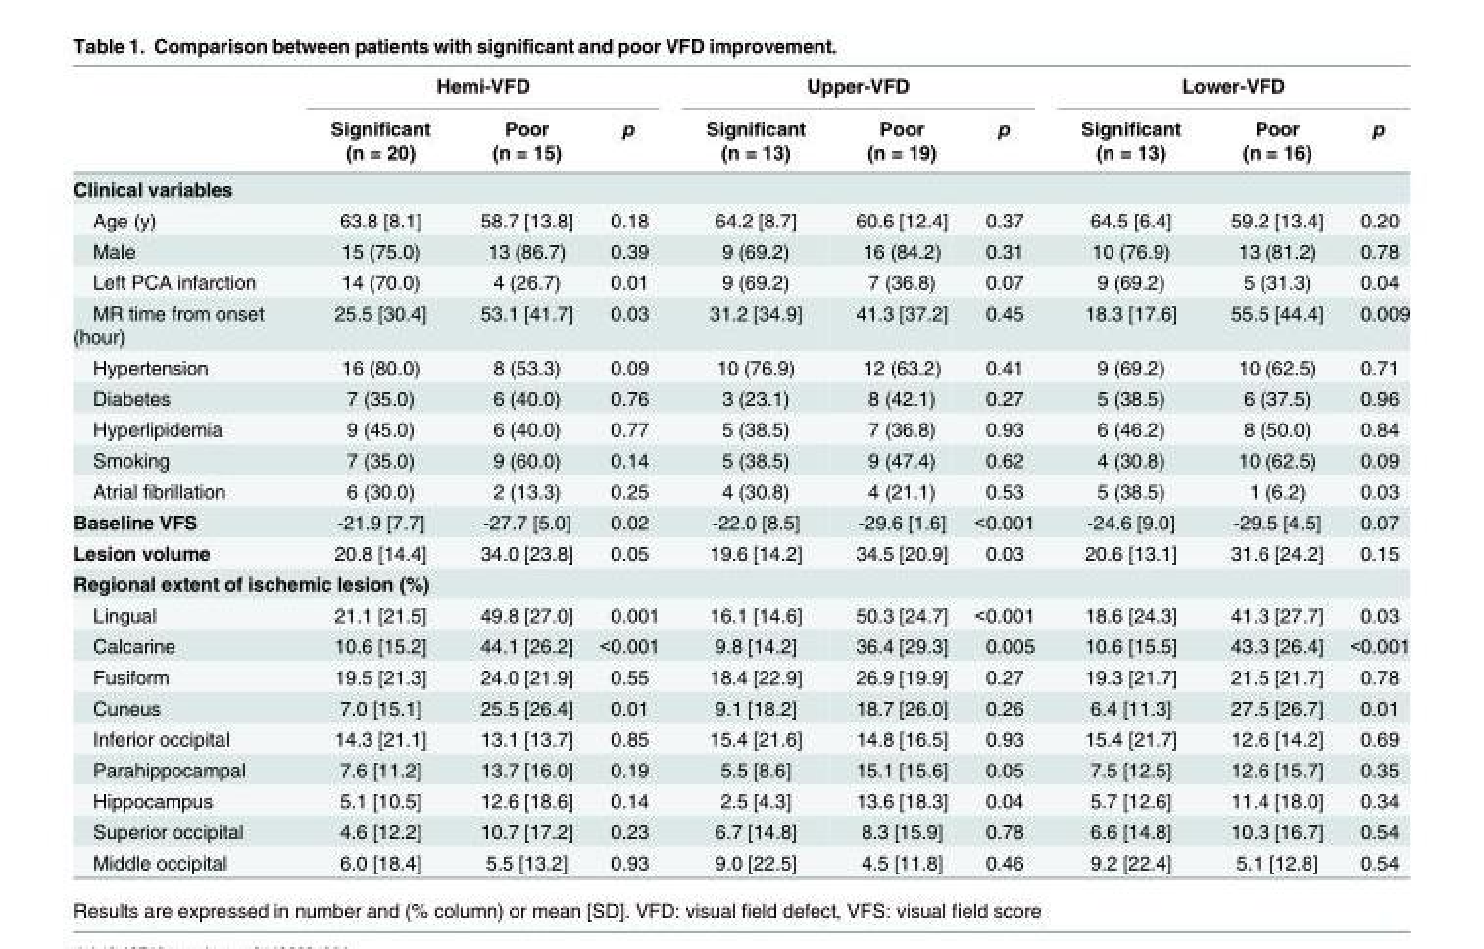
<table><thead><tr><td rowspan="2"></td><td colspan="3">Hemi-VFD</td><td colspan="3">Upper-VFD</td><td colspan="3">Lower-VFD</td></tr><tr><td>Significant (n = 20)</td><td>Poor (n = 15)</td><td>p</td><td>Significant (n = 13)</td><td>Poor (n = 19)</td><td>p</td><td>Significant (n = 13)</td><td>Poor (n = 16)</td><td>p</td></tr></thead><tbody><tr><td colspan="10">Clinical variables</td></tr><tr><td>Age (y)</td><td>63.8 [8.1]</td><td>58.7 [13.8]</td><td>0.18</td><td>64.2 [8.7]</td><td>60.6 [12.4]</td><td>0.37</td><td>64.5 [6.4]</td><td>59.2 [13.4]</td><td>0.20</td></tr><tr><td>Male</td><td>15 (75.0)</td><td>13 (86.7)</td><td>0.39</td><td>9 (69.2)</td><td>16 (84.2)</td><td>0.31</td><td>10 (76.9)</td><td>13 (81.2)</td><td>0.78</td></tr><tr><td>Left PCA infarction</td><td>14 (70.0)</td><td>4 (26.7)</td><td>0.01</td><td>9 (69.2)</td><td>7 (36.8)</td><td>0.07</td><td>9 (69.2)</td><td>5 (31.3)</td><td>0.04</td></tr><tr><td>MR time from onset (hour)</td><td>25.5 [30.4]</td><td>53.1 [41.7]</td><td>0.03</td><td>31.2 [34.9]</td><td>41.3 [37.2]</td><td>0.45</td><td>18.3 [17.6]</td><td>55.5 [44.4]</td><td>0.009</td></tr><tr><td>Hypertension</td><td>16 (80.0)</td><td>8 (53.3)</td><td>0.09</td><td>10 (76.9)</td><td>12 (63.2)</td><td>0.41</td><td>9 (69.2)</td><td>10 (62.5)</td><td>0.71</td></tr><tr><td>Diabetes</td><td>7 (35.0)</td><td>6 (40.0)</td><td>0.76</td><td>3 (23.1)</td><td>8 (42.1)</td><td>0.27</td><td>5 (38.5)</td><td>6 (37.5)</td><td>0.96</td></tr><tr><td>Hyperlipidemia</td><td>9 (45.0)</td><td>6 (40.0)</td><td>0.77</td><td>5 (38.5)</td><td>7 (36.8)</td><td>0.93</td><td>6 (46.2)</td><td>8 (50.0)</td><td>0.84</td></tr><tr><td>Smoking</td><td>7 (35.0)</td><td>9 (60.0)</td><td>0.14</td><td>5 (38.5)</td><td>9 (47.4)</td><td>0.62</td><td>4 (30.8)</td><td>10 (62.5)</td><td>0.09</td></tr><tr><td>Atrial fibrillation</td><td>6 (30.0)</td><td>2 (13.3)</td><td>0.25</td><td>4 (30.8)</td><td>4 (21.1)</td><td>0.53</td><td>5 (38.5)</td><td>1 (6.2)</td><td>0.03</td></tr><tr><td>Baseline VFS</td><td>-21.9 [7.7]</td><td>-27.7 [5.0]</td><td>0.02</td><td>-22.0 [8.5]</td><td>-29.6 [1.6]</td><td>&lt;0.001</td><td>-24.6 [9.0]</td><td>-29.5 [4.5]</td><td>0.07</td></tr><tr><td>Lesion volume</td><td>20.8 [14.4]</td><td>34.0 [23.8]</td><td>0.05</td><td>19.6 [14.2]</td><td>34.5 [20.9]</td><td>0.03</td><td>20.6 [13.1]</td><td>31.6 [24.2]</td><td>0.15</td></tr><tr><td colspan="10">Regional extent of ischemic lesion (%)</td></tr><tr><td>Lingual</td><td>21.1 [21.5]</td><td>49.8 [27.0]</td><td>0.001</td><td>16.1 [14.6]</td><td>50.3 [24.7]</td><td>&lt;0.001</td><td>18.6 [24.3]</td><td>41.3 [27.7]</td><td>0.03</td></tr><tr><td>Calcarine</td><td>10.6 [15.2]</td><td>44.1 [26.2]</td><td>&lt;0.001</td><td>9.8 [14.2]</td><td>36.4 [29.3]</td><td>0.005</td><td>10.6 [15.5]</td><td>43.3 [26.4]</td><td>&lt;0.001</td></tr><tr><td>Fusiform</td><td>19.5 [21.3]</td><td>24.0 [21.9]</td><td>0.55</td><td>18.4 [22.9]</td><td>26.9 [19.9]</td><td>0.27</td><td>19.3 [21.7]</td><td>21.5 [21.7]</td><td>0.78</td></tr><tr><td>Cuneus</td><td>7.0 [15.1]</td><td>25.5 [26.4]</td><td>0.01</td><td>9.1 [18.2]</td><td>18.7 [26.0]</td><td>0.26</td><td>6.4 [11.3]</td><td>27.5 [26.7]</td><td>0.01</td></tr><tr><td>Inferior occipital</td><td>14.3 [21.1]</td><td>13.1 [13.7]</td><td>0.85</td><td>15.4 [21.6]</td><td>14.8 [16.5]</td><td>0.93</td><td>15.4 [21.7]</td><td>12.6 [14.2]</td><td>0.69</td></tr><tr><td>Parahippocampal</td><td>7.6 [11.2]</td><td>13.7 [16.0]</td><td>0.19</td><td>5.5 [8.6]</td><td>15.1 [15.6]</td><td>0.05</td><td>7.5 [12.5]</td><td>12.6 [15.7]</td><td>0.35</td></tr><tr><td>Hippocampus</td><td>5.1 [10.5]</td><td>12.6 [18.6]</td><td>0.14</td><td>2.5 [4.3]</td><td>13.6 [18.3]</td><td>0.04</td><td>5.7 [12.6]</td><td>11.4 [18.0]</td><td>0.34</td></tr><tr><td>Superior occipital</td><td>4.6 [12.2]</td><td>10.7 [17.2]</td><td>0.23</td><td>6.7 [14.8]</td><td>8.3 [15.9]</td><td>0.78</td><td>6.6 [14.8]</td><td>10.3 [16.7]</td><td>0.54</td></tr><tr><td>Middle occipital</td><td>6.0 [18.4]</td><td>5.5 [13.2]</td><td>0.93</td><td>9.0 [22.5]</td><td>4.5 [11.8]</td><td>0.46</td><td>9.2 [22.4]</td><td>5.1 [12.8]</td><td>0.54</td></tr></tbody></table>